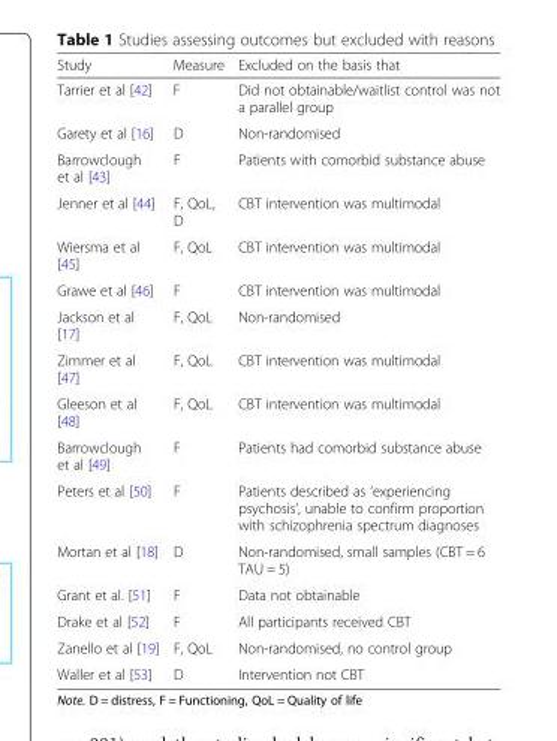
<table><thead><tr><td>Study</td><td>Measure</td><td>Excluded on the basis that</td></tr></thead><tbody><tr><td>Tarrier et al [42]</td><td>F</td><td>Did not obtainable/waitlist control was not a parallel group</td></tr><tr><td>Garety et al [16]</td><td>D</td><td>Non-randomised</td></tr><tr><td>Barrowclough et al [43]</td><td>F</td><td>Patients with comorbid substance abuse</td></tr><tr><td>Jenner et al [44]</td><td>F, QoL, D</td><td>CBT intervention was multimodal</td></tr><tr><td>Wiersma et al [45]</td><td>F, QoL</td><td>CBT intervention was multimodal</td></tr><tr><td>Grawe et al [46]</td><td>F</td><td>CBT intervention was multimodal</td></tr><tr><td>Jackson et al [17]</td><td>F, QoL</td><td>Non-randomised</td></tr><tr><td>Zimmer et al [47]</td><td>F, QoL</td><td>CBT intervention was multimodal</td></tr><tr><td>Gleeson et al [48]</td><td>F, QoL</td><td>CBT intervention was multimodal</td></tr><tr><td>Barrowclough et al [49]</td><td>F</td><td>Patients had comorbid substance abuse</td></tr><tr><td>Peters et al [50]</td><td>F</td><td>Patients described as ‘experiencing psychosis’, unable to confirm proportion with schizophrenia spectrum diagnoses</td></tr><tr><td>Mortan et al [18]</td><td>D</td><td>Non-randomised, small samples (CBT = 6 TAU = 5)</td></tr><tr><td>Grant et al. [51]</td><td>F</td><td>Data not obtainable</td></tr><tr><td>Drake et al [52]</td><td>F</td><td>All participants received CBT</td></tr><tr><td>Zanello et al [19]</td><td>F, QoL</td><td>Non-randomised, no control group</td></tr><tr><td>Waller et al [53]</td><td>D</td><td>Intervention not CBT</td></tr></tbody></table>